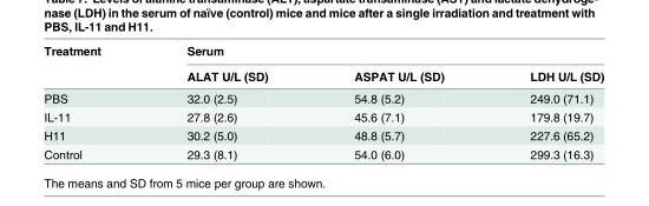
<table><thead><tr><td rowspan="2">Treatment</td><td colspan="3">Serum</td></tr><tr><td>ALAT U/L (SD)</td><td>ASPAT U/L (SD)</td><td>LDH U/L (SD)</td></tr></thead><tbody><tr><td>PBS</td><td>32.0 (2.5)</td><td>54.8 (5.2)</td><td>249.0 (71.1)</td></tr><tr><td>IL-11</td><td>27.8 (2.6)</td><td>45.6 (7.1)</td><td>179.8 (19.7)</td></tr><tr><td>H11</td><td>30.2 (5.0)</td><td>48.8 (5.7)</td><td>227.6 (65.2)</td></tr><tr><td>Control</td><td>29.3 (8.1)</td><td>54.0 (6.0)</td><td>299.3 (16.3)</td></tr></tbody></table>